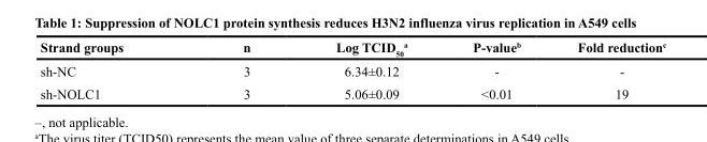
<table><thead><tr><td>Strand groups</td><td>n</td><td>Log TCID<sub>50</sub> <sup>a</sup></td><td>P-value<sup>b</sup></td><td>Fold reduction<sup>c</sup></td></tr></thead><tbody><tr><td>sh-NC</td><td>3</td><td>6.34±0.12</td><td>-</td><td>-</td></tr><tr><td>sh-NOLC1</td><td>3</td><td>5.06±0.09</td><td>&lt;0.01</td><td>19</td></tr></tbody></table>